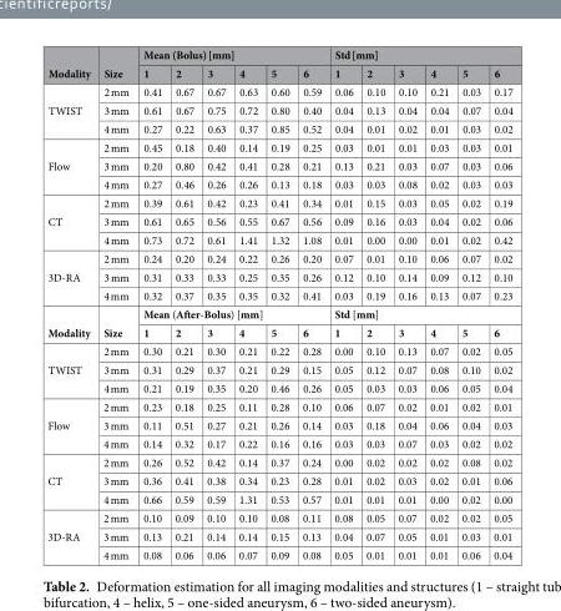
<table><thead><tr><td rowspan="2">Modality</td><td rowspan="2">Size</td><td colspan="6">Mean (Bolus) [mm]</td><td colspan="6">Std [mm]</td></tr><tr><td>1</td><td>2</td><td>3</td><td>4</td><td>5</td><td>6</td><td>1</td><td>2</td><td>3</td><td>4</td><td>5</td><td>6</td></tr></thead><tbody><tr><td rowspan="3">TWIST</td><td>2 mm</td><td>0.41</td><td>0.67</td><td>0.67</td><td>0.63</td><td>0.60</td><td>0.59</td><td>0.06</td><td>0.10</td><td>0.10</td><td>0.21</td><td>0.03</td><td>0.17</td></tr><tr><td>3 mm</td><td>0.61</td><td>0.67</td><td>0.75</td><td>0.72</td><td>0.80</td><td>0.40</td><td>0.04</td><td>0.13</td><td>0.04</td><td>0.04</td><td>0.07</td><td>0.04</td></tr><tr><td>4 mm</td><td>0.27</td><td>0.22</td><td>0.63</td><td>0.37</td><td>0.85</td><td>0.52</td><td>0.04</td><td>0.01</td><td>0.02</td><td>0.01</td><td>0.03</td><td>0.02</td></tr><tr><td rowspan="3">Flow</td><td>2 mm</td><td>0.45</td><td>0.18</td><td>0.40</td><td>0.14</td><td>0.19</td><td>0.25</td><td>0.03</td><td>0.01</td><td>0.01</td><td>0.03</td><td>0.03</td><td>0.01</td></tr><tr><td>3 mm</td><td>0.20</td><td>0.80</td><td>0.42</td><td>0.41</td><td>0.28</td><td>0.21</td><td>0.13</td><td>0.21</td><td>0.03</td><td>0.07</td><td>0.03</td><td>0.06</td></tr><tr><td>4 mm</td><td>0.27</td><td>0.46</td><td>0.26</td><td>0.26</td><td>0.13</td><td>0.18</td><td>0.03</td><td>0.03</td><td>0.08</td><td>0.02</td><td>0.03</td><td>0.03</td></tr><tr><td rowspan="3">CT</td><td>2 mm</td><td>0.39</td><td>0.61</td><td>0.42</td><td>0.23</td><td>0.41</td><td>0.34</td><td>0.01</td><td>0.15</td><td>0.03</td><td>0.05</td><td>0.02</td><td>0.19</td></tr><tr><td>3 mm</td><td>0.61</td><td>0.65</td><td>0.56</td><td>0.55</td><td>0.67</td><td>0.56</td><td>0.09</td><td>0.16</td><td>0.03</td><td>0.04</td><td>0.02</td><td>0.06</td></tr><tr><td>4 mm</td><td>0.73</td><td>0.72</td><td>0.61</td><td>1.41</td><td>1.32</td><td>1.08</td><td>0.01</td><td>0.00</td><td>0.00</td><td>0.01</td><td>0.02</td><td>0.42</td></tr><tr><td rowspan="3">3D-RA</td><td>2 mm</td><td>0.24</td><td>0.20</td><td>0.24</td><td>0.22</td><td>0.26</td><td>0.20</td><td>0.07</td><td>0.01</td><td>0.10</td><td>0.06</td><td>0.07</td><td>0.02</td></tr><tr><td>3 mm</td><td>0.31</td><td>0.33</td><td>0.33</td><td>0.25</td><td>0.35</td><td>0.26</td><td>0.12</td><td>0.10</td><td>0.14</td><td>0.09</td><td>0.12</td><td>0.10</td></tr><tr><td>4 mm</td><td>0.32</td><td>0.37</td><td>0.35</td><td>0.35</td><td>0.32</td><td>0.41</td><td>0.03</td><td>0.19</td><td>0.16</td><td>0.13</td><td>0.07</td><td>0.23</td></tr><tr><td rowspan="2">Modality</td><td rowspan="2">Size</td><td colspan="6">Mean (After-Bolus) [mm]</td><td colspan="6">Std [mm]</td></tr><tr><td>1</td><td>2</td><td>3</td><td>4</td><td>5</td><td>6</td><td>1</td><td>2</td><td>3</td><td>4</td><td>5</td><td>6</td></tr><tr><td rowspan="3">TWIST</td><td>2 mm</td><td>0.30</td><td>0.21</td><td>0.30</td><td>0.21</td><td>0.22</td><td>0.28</td><td>0.00</td><td>0.10</td><td>0.13</td><td>0.07</td><td>0.02</td><td>0.05</td></tr><tr><td>3 mm</td><td>0.31</td><td>0.29</td><td>0.37</td><td>0.21</td><td>0.29</td><td>0.15</td><td>0.05</td><td>0.12</td><td>0.07</td><td>0.08</td><td>0.10</td><td>0.02</td></tr><tr><td>4 mm</td><td>0.21</td><td>0.19</td><td>0.35</td><td>0.20</td><td>0.46</td><td>0.26</td><td>0.05</td><td>0.03</td><td>0.03</td><td>0.06</td><td>0.05</td><td>0.04</td></tr><tr><td rowspan="3">Flow</td><td>2 mm</td><td>0.23</td><td>0.18</td><td>0.25</td><td>0.11</td><td>0.28</td><td>0.10</td><td>0.06</td><td>0.07</td><td>0.02</td><td>0.01</td><td>0.02</td><td>0.01</td></tr><tr><td>3 mm</td><td>0.11</td><td>0.51</td><td>0.27</td><td>0.21</td><td>0.26</td><td>0.14</td><td>0.03</td><td>0.18</td><td>0.04</td><td>0.06</td><td>0.04</td><td>0.03</td></tr><tr><td>4 mm</td><td>0.14</td><td>0.32</td><td>0.17</td><td>0.22</td><td>0.16</td><td>0.16</td><td>0.03</td><td>0.03</td><td>0.07</td><td>0.03</td><td>0.02</td><td>0.02</td></tr><tr><td rowspan="3">CT</td><td>2 mm</td><td>0.26</td><td>0.52</td><td>0.42</td><td>0.14</td><td>0.37</td><td>0.24</td><td>0.00</td><td>0.02</td><td>0.02</td><td>0.02</td><td>0.08</td><td>0.02</td></tr><tr><td>3 mm</td><td>0.36</td><td>0.41</td><td>0.38</td><td>0.34</td><td>0.23</td><td>0.28</td><td>0.01</td><td>0.02</td><td>0.03</td><td>0.02</td><td>0.01</td><td>0.06</td></tr><tr><td>4 mm</td><td>0.66</td><td>0.59</td><td>0.59</td><td>1.31</td><td>0.53</td><td>0.57</td><td>0.01</td><td>0.01</td><td>0.01</td><td>0.00</td><td>0.02</td><td>0.00</td></tr><tr><td rowspan="3">3D-RA</td><td>2 mm</td><td>0.10</td><td>0.09</td><td>0.10</td><td>0.10</td><td>0.08</td><td>0.11</td><td>0.08</td><td>0.05</td><td>0.07</td><td>0.02</td><td>0.02</td><td>0.05</td></tr><tr><td>3 mm</td><td>0.13</td><td>0.21</td><td>0.14</td><td>0.14</td><td>0.15</td><td>0.13</td><td>0.04</td><td>0.07</td><td>0.05</td><td>0.01</td><td>0.03</td><td>0.01</td></tr><tr><td>4 mm</td><td>0.08</td><td>0.06</td><td>0.06</td><td>0.07</td><td>0.09</td><td>0.08</td><td>0.05</td><td>0.01</td><td>0.01</td><td>0.01</td><td>0.06</td><td>0.04</td></tr></tbody></table>